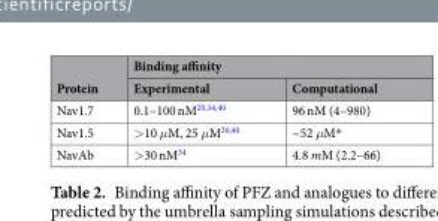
<table><thead><tr><td rowspan="2">Protein</td><td colspan="2">Binding affinity</td></tr><tr><td>Experimental</td><td>Computational</td></tr></thead><tbody><tr><td>Nav1.7</td><td>0.1–100 nM<sup>20,34,40</sup></td><td>96 nM (4–980)</td></tr><tr><td>Nav1.5</td><td>&gt;10 μM, 25 μM<sup>20,40</sup></td><td>~52 μM*</td></tr><tr><td>NavAb</td><td>&gt;30 nM<sup>34</sup></td><td>4.8 mM (2.2–66)</td></tr></tbody></table>